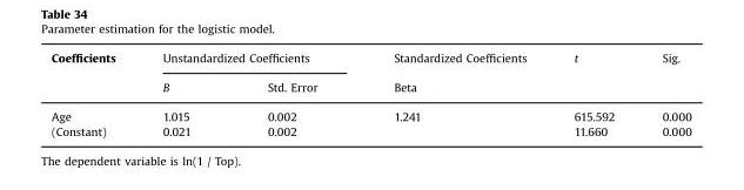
<table><thead><tr><td rowspan="2">Coefficients</td><td colspan="2">Unstandardized Coefficients</td><td rowspan="2">Standardized Coefficients Beta</td><td rowspan="2">t</td><td rowspan="2">Sig.</td></tr><tr><td>B</td><td>Std. Error</td></tr></thead><tbody><tr><td>Age</td><td>1.015</td><td>0.002</td><td>1.241</td><td>615.592</td><td>0.000</td></tr><tr><td>(Constant)</td><td>0.021</td><td>0.002</td><td></td><td>11.660</td><td>0.000</td></tr></tbody></table>